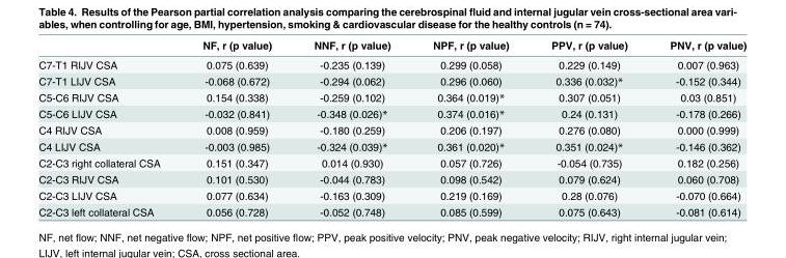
<table><thead><tr><td></td><td>NF, r (p value)</td><td>NNF, r (p value)</td><td>NPF, r (p value)</td><td>PPV, r (p value)</td><td>PNV, r (p value)</td></tr></thead><tbody><tr><td>C7-T1 RIJV CSA</td><td>0.075 (0.639)</td><td>-0.235 (0.139)</td><td>0.299 (0.058)</td><td>0.229 (0.149)</td><td>0.007 (0.963)</td></tr><tr><td>C7-T1 LIJV CSA</td><td>-0.068 (0.672)</td><td>-0.294 (0.062)</td><td>0.296 (0.060)</td><td>0.336 (0.032)*</td><td>-0.152 (0.344)</td></tr><tr><td>C5-C6 RIJV CSA</td><td>0.154 (0.338)</td><td>-0.259 (0.102)</td><td>0.364 (0.019)*</td><td>0.307 (0.051)</td><td>0.03 (0.851)</td></tr><tr><td>C5-C6 LIJV CSA</td><td>-0.032 (0.841)</td><td>-0.348 (0.026)*</td><td>0.374 (0.016)*</td><td>0.24 (0.131)</td><td>-0.178 (0.266)</td></tr><tr><td>C4 RIJV CSA</td><td>0.008 (0.959)</td><td>-0.180 (0.259)</td><td>0.206 (0.197)</td><td>0.276 (0.080)</td><td>0.000 (0.999)</td></tr><tr><td>C4 LIJV CSA</td><td>-0.003 (0.985)</td><td>-0.324 (0.039)*</td><td>0.361 (0.020)*</td><td>0.351 (0.024)*</td><td>-0.146 (0.362)</td></tr><tr><td>C2-C3 right collateral CSA</td><td>0.151 (0.347)</td><td>0.014 (0.930)</td><td>0.057 (0.726)</td><td>-0.054 (0.735)</td><td>0.182 (0.256)</td></tr><tr><td>C2-C3 RIJV CSA</td><td>0.101 (0.530)</td><td>-0.044 (0.783)</td><td>0.098 (0.542)</td><td>0.079 (0.624)</td><td>0.060 (0.708)</td></tr><tr><td>C2-C3 LIJV CSA</td><td>0.077 (0.634)</td><td>-0.163 (0.309)</td><td>0.219 (0.169)</td><td>0.28 (0.076)</td><td>-0.070 (0.664)</td></tr><tr><td>C2-C3 left collateral CSA</td><td>0.056 (0.728)</td><td>-0.052 (0.748)</td><td>0.085 (0.599)</td><td>0.075 (0.643)</td><td>-0.081 (0.614)</td></tr></tbody></table>